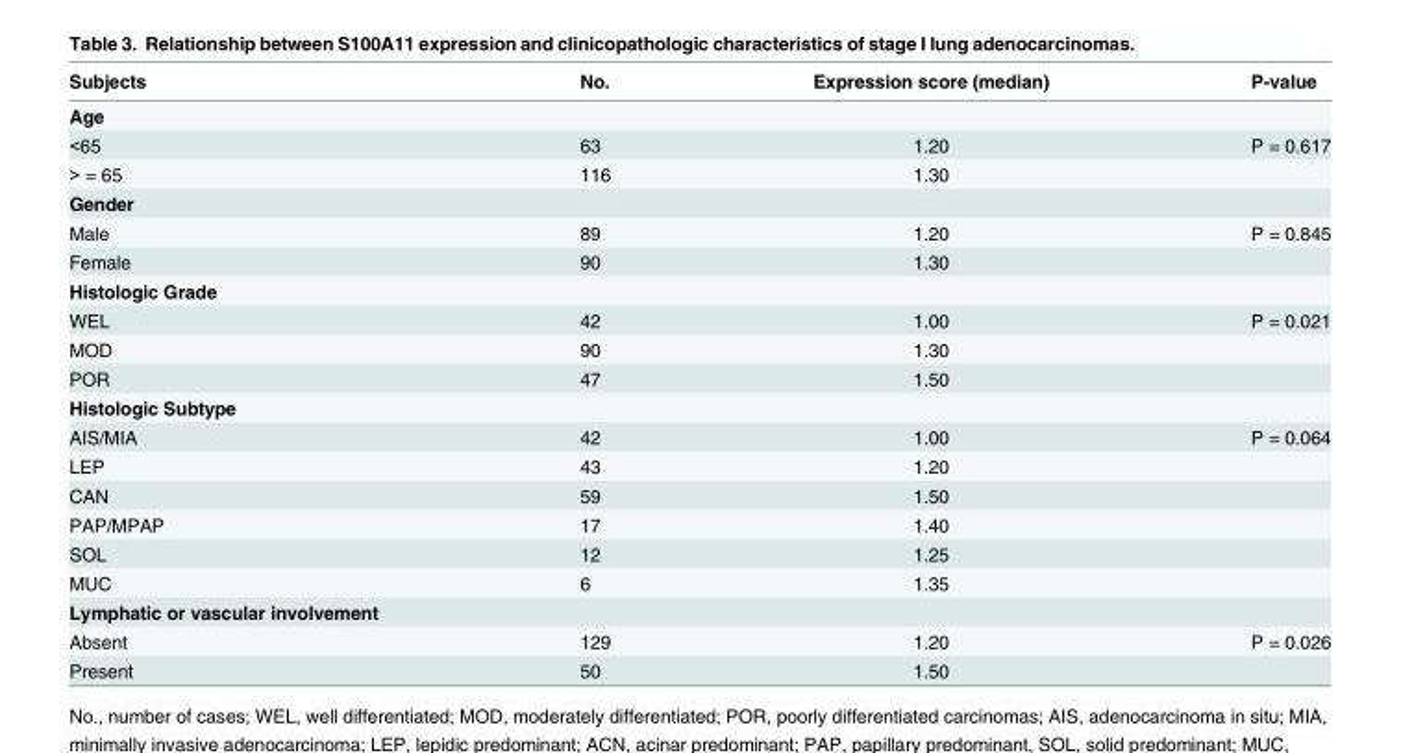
<table><thead><tr><td>Subjects</td><td>No.</td><td>Expression score (median)</td><td>P-value</td></tr></thead><tbody><tr><td colspan="4">Age</td></tr><tr><td>&lt;65</td><td>63</td><td>1.20</td><td>P = 0.617</td></tr><tr><td>&gt; = 65</td><td>116</td><td>1.30</td><td></td></tr><tr><td colspan="4">Gender</td></tr><tr><td>Male</td><td>89</td><td>1.20</td><td>P = 0.845</td></tr><tr><td>Female</td><td>90</td><td>1.30</td><td></td></tr><tr><td colspan="4">Histologic Grade</td></tr><tr><td>WEL</td><td>42</td><td>1.00</td><td>P = 0.021</td></tr><tr><td>MOD</td><td>90</td><td>1.30</td><td></td></tr><tr><td>POR</td><td>47</td><td>1.50</td><td></td></tr><tr><td colspan="4">Histologic Subtype</td></tr><tr><td>AIS/MIA</td><td>42</td><td>1.00</td><td>P = 0.064</td></tr><tr><td>LEP</td><td>43</td><td>1.20</td><td></td></tr><tr><td>CAN</td><td>59</td><td>1.50</td><td></td></tr><tr><td>PAP/MPAP</td><td>17</td><td>1.40</td><td></td></tr><tr><td>SOL</td><td>12</td><td>1.25</td><td></td></tr><tr><td>MUC</td><td>6</td><td>1.35</td><td></td></tr><tr><td colspan="4">Lymphatic or vascular involvement</td></tr><tr><td>Absent</td><td>129</td><td>1.20</td><td>P = 0.026</td></tr><tr><td>Present</td><td>50</td><td>1.50</td><td></td></tr></tbody></table>